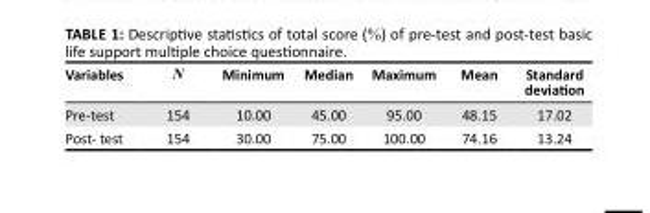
<table><thead><tr><td>Variables</td><td>N</td><td>Minimum</td><td>Median</td><td>Maximum</td><td>Mean</td><td>Standard deviation</td></tr></thead><tbody><tr><td>Pre-test</td><td>154</td><td>10.00</td><td>45.00</td><td>95.00</td><td>48.15</td><td>17.02</td></tr><tr><td>Post- test</td><td>154</td><td>30.00</td><td>75.00</td><td>100.00</td><td>74.16</td><td>13.24</td></tr></tbody></table>